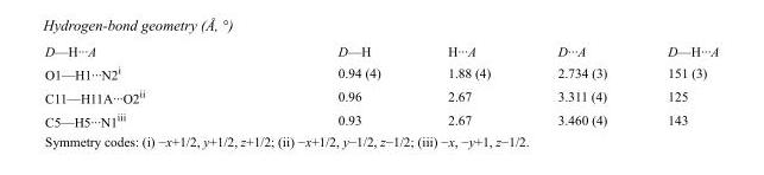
<table><tbody><tr><td>D—H···A</td><td>D—H</td><td>H···A</td><td>D···A</td><td>D—H···A</td></tr><tr><td>O1—H1···N2<sup>i</sup></td><td>0.94 (4)</td><td>1.88 (4)</td><td>2.734 (3)</td><td>151 (3)</td></tr><tr><td>C11—H11A···O2<sup>ii</sup></td><td>0.96</td><td>2.67</td><td>3.311 (4)</td><td>125</td></tr><tr><td>C5—H5···N1<sup>iii</sup></td><td>0.93</td><td>2.67</td><td>3.460 (4)</td><td>143</td></tr></tbody></table>